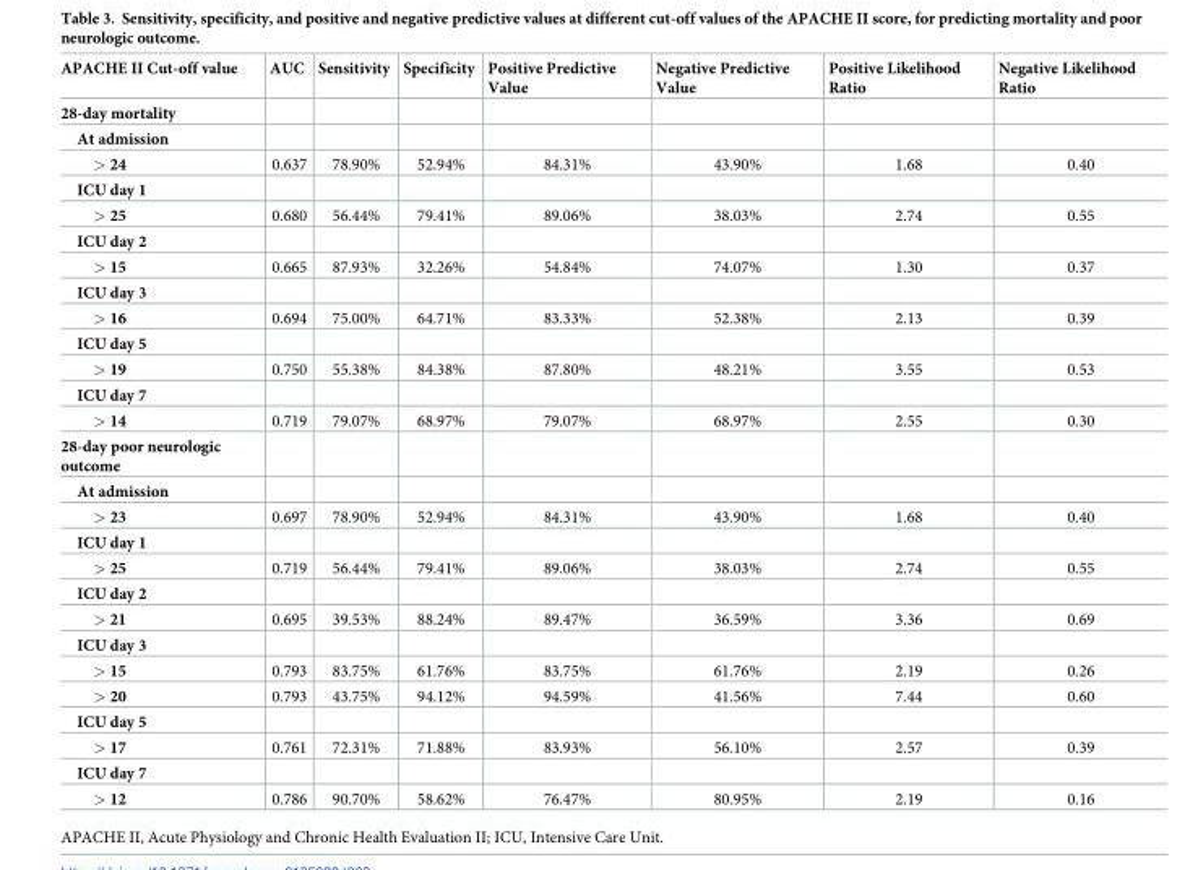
<table><thead><tr><td>APACHE II Cut-off value</td><td>AUC</td><td>Sensitivity</td><td>Specificity</td><td>Positive Predictive Value</td><td>Negative Predictive Value</td><td>Positive Likelihood Ratio</td><td>Negative Likelihood Ratio</td></tr></thead><tbody><tr><td colspan="8">28-day mortality</td></tr><tr><td colspan="8">At admission</td></tr><tr><td>&gt; 24</td><td>0.637</td><td>78.90%</td><td>52.94%</td><td>84.31%</td><td>43.90%</td><td>1.68</td><td>0.40</td></tr><tr><td colspan="8">ICU day 1</td></tr><tr><td>&gt; 25</td><td>0.680</td><td>56.44%</td><td>79.41%</td><td>89.06%</td><td>38.03%</td><td>2.74</td><td>0.55</td></tr><tr><td colspan="8">ICU day 2</td></tr><tr><td>&gt; 15</td><td>0.665</td><td>87.93%</td><td>32.26%</td><td>54.84%</td><td>74.07%</td><td>1.30</td><td>0.37</td></tr><tr><td colspan="8">ICU day 3</td></tr><tr><td>&gt; 16</td><td>0.694</td><td>75.00%</td><td>64.71%</td><td>83.33%</td><td>52.38%</td><td>2.13</td><td>0.39</td></tr><tr><td colspan="8">ICU day 5</td></tr><tr><td>&gt; 19</td><td>0.750</td><td>55.38%</td><td>84.38%</td><td>87.80%</td><td>48.21%</td><td>3.55</td><td>0.53</td></tr><tr><td colspan="8">ICU day 7</td></tr><tr><td>&gt; 14</td><td>0.719</td><td>79.07%</td><td>68.97%</td><td>79.07%</td><td>68.97%</td><td>2.55</td><td>0.30</td></tr><tr><td colspan="8">28-day poor neurologic outcome</td></tr><tr><td colspan="8">At admission</td></tr><tr><td>&gt; 23</td><td>0.697</td><td>78.90%</td><td>52.94%</td><td>84.31%</td><td>43.90%</td><td>1.68</td><td>0.40</td></tr><tr><td colspan="8">ICU day 1</td></tr><tr><td>&gt; 25</td><td>0.719</td><td>56.44%</td><td>79.41%</td><td>89.06%</td><td>38.03%</td><td>2.74</td><td>0.55</td></tr><tr><td colspan="8">ICU day 2</td></tr><tr><td>&gt; 21</td><td>0.695</td><td>39.53%</td><td>88.24%</td><td>89.47%</td><td>36.59%</td><td>3.36</td><td>0.69</td></tr><tr><td colspan="8">ICU day 3</td></tr><tr><td>&gt; 15</td><td>0.793</td><td>83.75%</td><td>61.76%</td><td>83.75%</td><td>61.76%</td><td>2.19</td><td>0.26</td></tr><tr><td>&gt; 20</td><td>0.793</td><td>43.75%</td><td>94.12%</td><td>94.59%</td><td>41.56%</td><td>7.44</td><td>0.60</td></tr><tr><td colspan="8">ICU day 5</td></tr><tr><td>&gt; 17</td><td>0.761</td><td>72.31%</td><td>71.88%</td><td>83.93%</td><td>56.10%</td><td>2.57</td><td>0.39</td></tr><tr><td colspan="8">ICU day 7</td></tr><tr><td>&gt; 12</td><td>0.786</td><td>90.70%</td><td>58.62%</td><td>76.47%</td><td>80.95%</td><td>2.19</td><td>0.16</td></tr></tbody></table>